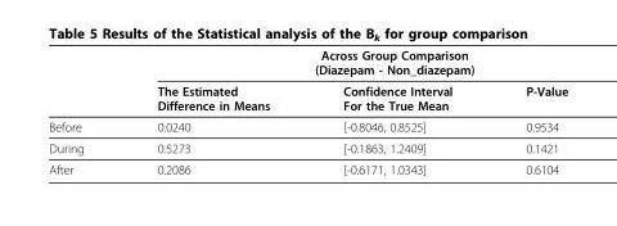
<table><thead><tr><td rowspan="2"></td><td colspan="3">Across Group Comparison (Diazepam - Non_diazepam)</td></tr><tr><td>The Estimated Difference in Means</td><td>Confidence Interval For the True Mean</td><td>P-Value</td></tr></thead><tbody><tr><td>Before</td><td>0.0240</td><td>[-0.8046, 0.8525]</td><td>0.9534</td></tr><tr><td>During</td><td>0.5273</td><td>[-0.1863, 1.2409]</td><td>0.1421</td></tr><tr><td>After</td><td>0.2086</td><td>[-0.6171, 1.0343]</td><td>0.6104</td></tr></tbody></table>